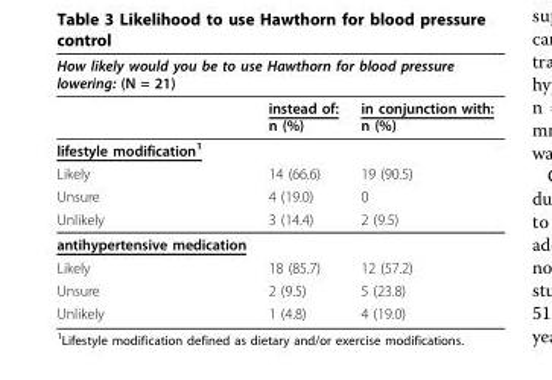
<table><thead><tr><td colspan="3">How likely would you be to use Hawthorn for blood pressure lowering: (N = 21)</td></tr><tr><td></td><td>instead of: n (%)</td><td>in conjunction with: n (%)</td></tr></thead><tbody><tr><td colspan="3">lifestyle modification<sup>1</sup></td></tr><tr><td>Likely</td><td>14 (66.6)</td><td>19 (90.5)</td></tr><tr><td>Unsure</td><td>4 (19.0)</td><td>0</td></tr><tr><td>Unlikely</td><td>3 (14.4)</td><td>2 (9.5)</td></tr><tr><td colspan="3">antihypertensive medication</td></tr><tr><td>Likely</td><td>18 (85.7)</td><td>12 (57.2)</td></tr><tr><td>Unsure</td><td>2 (9.5)</td><td>5 (23.8)</td></tr><tr><td>Unlikely</td><td>1 (4.8)</td><td>4 (19.0)</td></tr></tbody></table>